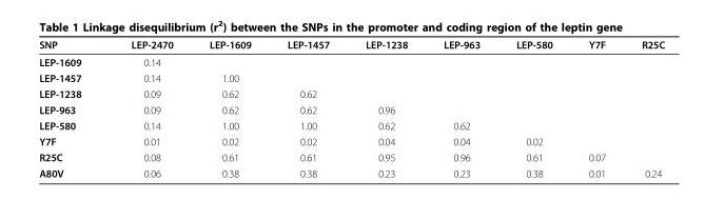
<table><thead><tr><td>SNP</td><td>LEP-2470</td><td>LEP-1609</td><td>LEP-1457</td><td>LEP-1238</td><td>LEP-963</td><td>LEP-580</td><td>Y7F</td><td>R25C</td></tr></thead><tbody><tr><td>LEP-1609</td><td>0.14</td><td></td><td></td><td></td><td></td><td></td><td></td><td></td></tr><tr><td>LEP-1457</td><td>0.14</td><td>1.00</td><td></td><td></td><td></td><td></td><td></td><td></td></tr><tr><td>LEP-1238</td><td>0.09</td><td>0.62</td><td>0.62</td><td></td><td></td><td></td><td></td><td></td></tr><tr><td>LEP-963</td><td>0.09</td><td>0.62</td><td>0.62</td><td>0.96</td><td></td><td></td><td></td><td></td></tr><tr><td>LEP-580</td><td>0.14</td><td>1.00</td><td>1.00</td><td>0.62</td><td>0.62</td><td></td><td></td><td></td></tr><tr><td>Y7F</td><td>0.01</td><td>0.02</td><td>0.02</td><td>0.04</td><td>0.04</td><td>0.02</td><td></td><td></td></tr><tr><td>R25C</td><td>0.08</td><td>0.61</td><td>0.61</td><td>0.95</td><td>0.96</td><td>0.61</td><td>0.07</td><td></td></tr><tr><td>A80V</td><td>0.06</td><td>0.38</td><td>0.38</td><td>0.23</td><td>0.23</td><td>0.38</td><td>0.01</td><td>0.24</td></tr></tbody></table>